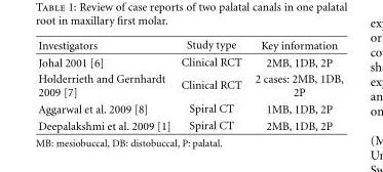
<table><thead><tr><td>Investigators</td><td>Study type</td><td>Key information</td></tr></thead><tbody><tr><td>Johal 2001 [6]</td><td>Clinical RCT</td><td>2MB, 1DB, 2P</td></tr><tr><td>Holderrieth and Gernhardt 2009 [7]</td><td>Clinical RCT</td><td>2 cases: 2MB, 1DB, 2P</td></tr><tr><td>Aggarwal et al. 2009 [8]</td><td>Spiral CT</td><td>1MB, 1DB, 2P</td></tr><tr><td>Deepalakshmi et al. 2009 [1]</td><td>Spiral CT</td><td>2MB, 1DB, 2P</td></tr></tbody></table>